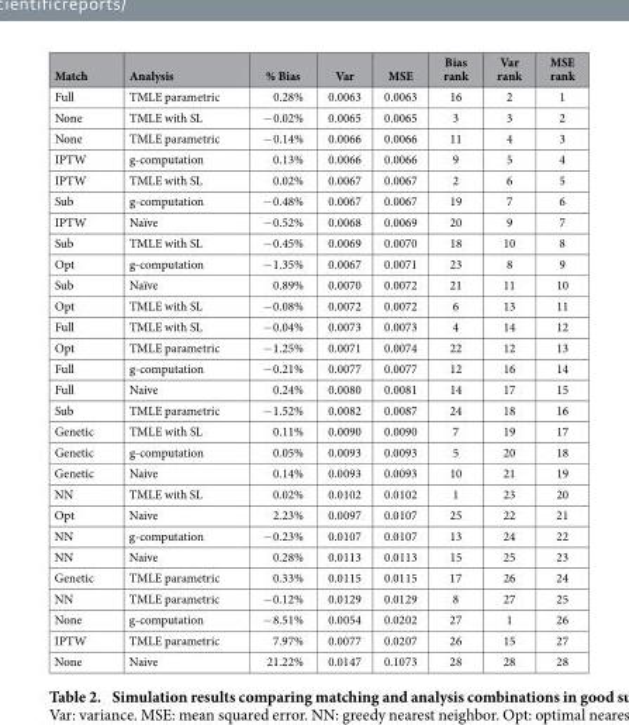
<table><thead><tr><td>Match</td><td>Analysis</td><td>% Bias</td><td>Var</td><td>MSE</td><td>Bias rank</td><td>Var rank</td><td>MSE rank</td></tr></thead><tbody><tr><td>Full</td><td>TMLE parametric</td><td>0.28%</td><td>0.0063</td><td>0.0063</td><td>16</td><td>2</td><td>1</td></tr><tr><td>None</td><td>TMLE with SL</td><td>− 0.02%</td><td>0.0065</td><td>0.0065</td><td>3</td><td>3</td><td>2</td></tr><tr><td>None</td><td>TMLE parametric</td><td>− 0.14%</td><td>0.0066</td><td>0.0066</td><td>11</td><td>4</td><td>3</td></tr><tr><td>IPTW</td><td>g-computation</td><td>0.13%</td><td>0.0066</td><td>0.0066</td><td>9</td><td>5</td><td>4</td></tr><tr><td>IPTW</td><td>TMLE with SL</td><td>0.02%</td><td>0.0067</td><td>0.0067</td><td>2</td><td>6</td><td>5</td></tr><tr><td>Sub</td><td>g-computation</td><td>− 0.48%</td><td>0.0067</td><td>0.0067</td><td>19</td><td>7</td><td>6</td></tr><tr><td>IPTW</td><td>Naïve</td><td>− 0.52%</td><td>0.0068</td><td>0.0069</td><td>20</td><td>9</td><td>7</td></tr><tr><td>Sub</td><td>TMLE with SL</td><td>− 0.45%</td><td>0.0069</td><td>0.0070</td><td>18</td><td>10</td><td>8</td></tr><tr><td>Opt</td><td>g-computation</td><td>− 1.35%</td><td>0.0067</td><td>0.0071</td><td>23</td><td>8</td><td>9</td></tr><tr><td>Sub</td><td>Naïve</td><td>0.89%</td><td>0.0070</td><td>0.0072</td><td>21</td><td>11</td><td>10</td></tr><tr><td>Opt</td><td>TMLE with SL</td><td>− 0.08%</td><td>0.0072</td><td>0.0072</td><td>6</td><td>13</td><td>11</td></tr><tr><td>Full</td><td>TMLE with SL</td><td>− 0.04%</td><td>0.0073</td><td>0.0073</td><td>4</td><td>14</td><td>12</td></tr><tr><td>Opt</td><td>TMLE parametric</td><td>− 1.25%</td><td>0.0071</td><td>0.0074</td><td>22</td><td>12</td><td>13</td></tr><tr><td>Full</td><td>g-computation</td><td>− 0.21%</td><td>0.0077</td><td>0.0077</td><td>12</td><td>16</td><td>14</td></tr><tr><td>Full</td><td>Naive</td><td>0.24%</td><td>0.0080</td><td>0.0081</td><td>14</td><td>17</td><td>15</td></tr><tr><td>Sub</td><td>TMLE parametric</td><td>− 1.52%</td><td>0.0082</td><td>0.0087</td><td>24</td><td>18</td><td>16</td></tr><tr><td>Genetic</td><td>TMLE with SL</td><td>0.11%</td><td>0.0090</td><td>0.0090</td><td>7</td><td>19</td><td>17</td></tr><tr><td>Genetic</td><td>g-computation</td><td>0.05%</td><td>0.0093</td><td>0.0093</td><td>5</td><td>20</td><td>18</td></tr><tr><td>Genetic</td><td>Naive</td><td>0.14%</td><td>0.0093</td><td>0.0093</td><td>10</td><td>21</td><td>19</td></tr><tr><td>NN</td><td>TMLE with SL</td><td>0.02%</td><td>0.0102</td><td>0.0102</td><td>1</td><td>23</td><td>20</td></tr><tr><td>Opt</td><td>Naive</td><td>2.23%</td><td>0.0097</td><td>0.0107</td><td>25</td><td>22</td><td>21</td></tr><tr><td>NN</td><td>g-computation</td><td>− 0.23%</td><td>0.0107</td><td>0.0107</td><td>13</td><td>24</td><td>22</td></tr><tr><td>NN</td><td>Naive</td><td>0.28%</td><td>0.0113</td><td>0.0113</td><td>15</td><td>25</td><td>23</td></tr><tr><td>Genetic</td><td>TMLE parametric</td><td>0.33%</td><td>0.0115</td><td>0.0115</td><td>17</td><td>26</td><td>24</td></tr><tr><td>NN</td><td>TMLE parametric</td><td>− 0.12%</td><td>0.0129</td><td>0.0129</td><td>8</td><td>27</td><td>25</td></tr><tr><td>None</td><td>g-computation</td><td>− 8.51%</td><td>0.0054</td><td>0.0202</td><td>27</td><td>1</td><td>26</td></tr><tr><td>IPTW</td><td>TMLE parametric</td><td>7.97%</td><td>0.0077</td><td>0.0207</td><td>26</td><td>15</td><td>27</td></tr><tr><td>None</td><td>Naive</td><td>21.22%</td><td>0.0147</td><td>0.1073</td><td>28</td><td>28</td><td>28</td></tr></tbody></table>